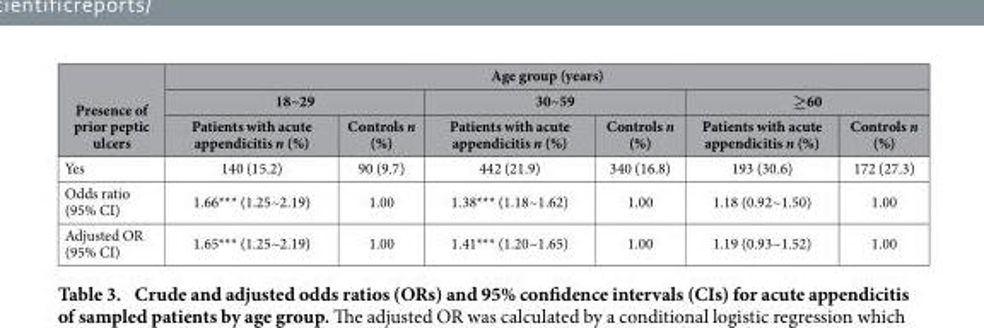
<table><thead><tr><td rowspan="3">Presence of prior peptic ulcers</td><td colspan="6">Age group (years)</td></tr><tr><td colspan="2">18~29</td><td colspan="2">30~59</td><td colspan="2">≥60</td></tr><tr><td>Patients with acute appendicitis n (%)</td><td>Controls n (%)</td><td>Patients with acute appendicitis n (%)</td><td>Controls n (%)</td><td>Patients with acute appendicitis n (%)</td><td>Controls n (%)</td></tr></thead><tbody><tr><td>Yes</td><td>140 (15.2)</td><td>90 (9.7)</td><td>442 (21.9)</td><td>340 (16.8)</td><td>193 (30.6)</td><td>172 (27.3)</td></tr><tr><td>Odds ratio (95% CI)</td><td>1.66*** (1.25~2.19)</td><td>1.00</td><td>1.38*** (1.18~1.62)</td><td>1.00</td><td>1.18 (0.92~1.50)</td><td>1.00</td></tr><tr><td>Adjusted OR (95% CI)</td><td>1.65*** (1.25~2.19)</td><td>1.00</td><td>1.41*** (1.20~1.65)</td><td>1.00</td><td>1.19 (0.93~1.52)</td><td>1.00</td></tr></tbody></table>